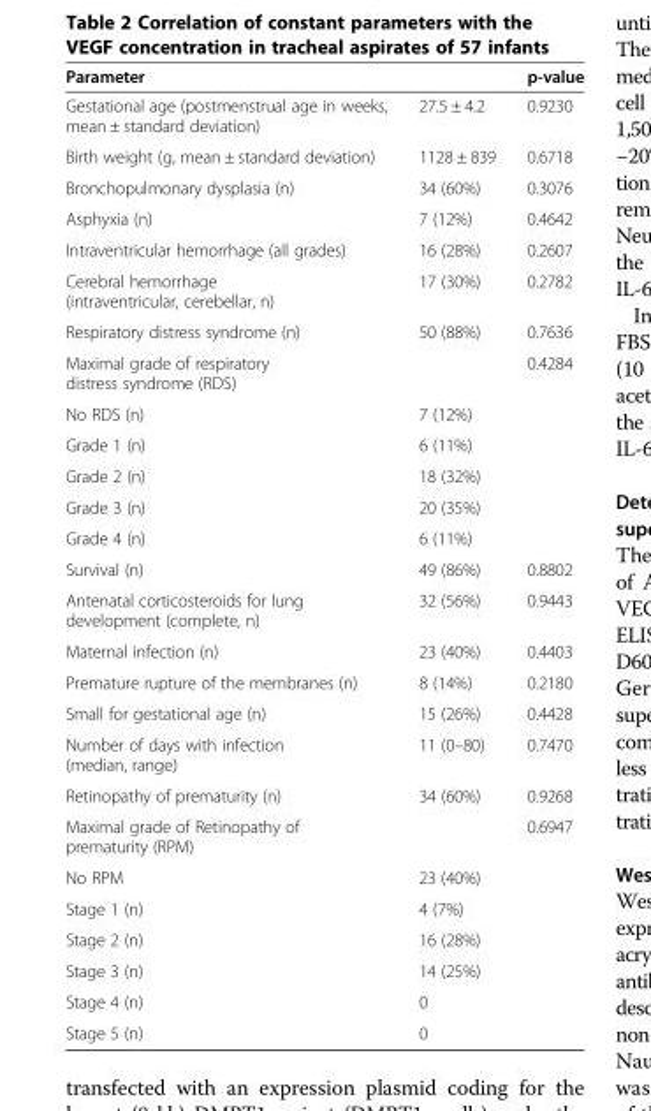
<table><thead><tr><td>Parameter</td><td></td><td>p-value</td></tr></thead><tbody><tr><td>Gestational age (postmenstrual age in weeks, mean ± standard deviation)</td><td>27.5 ± 4.2</td><td>0.9230</td></tr><tr><td>Birth weight (g, mean ± standard deviation)</td><td>1128 ± 839</td><td>0.6718</td></tr><tr><td>Bronchopulmonary dysplasia (n)</td><td>34 (60%)</td><td>0.3076</td></tr><tr><td>Asphyxia (n)</td><td>7 (12%)</td><td>0.4642</td></tr><tr><td>Intraventricular hemorrhage (all grades)</td><td>16 (28%)</td><td>0.2607</td></tr><tr><td>Cerebral hemorrhage (intraventricular, cerebellar, n)</td><td>17 (30%)</td><td>0.2782</td></tr><tr><td>Respiratory distress syndrome (n)</td><td>50 (88%)</td><td>0.7636</td></tr><tr><td>Maximal grade of respiratory distress syndrome (RDS)</td><td></td><td>0.4284</td></tr><tr><td>No RDS (n)</td><td>7 (12%)</td><td rowspan="5"></td></tr><tr><td>Grade 1 (n)</td><td>6 (11%)</td></tr><tr><td>Grade 2 (n)</td><td>18 (32%)</td></tr><tr><td>Grade 3 (n)</td><td>20 (35%)</td></tr><tr><td>Grade 4 (n)</td><td>6 (11%)</td></tr><tr><td>Survival (n)</td><td>49 (86%)</td><td>0.8802</td></tr><tr><td>Antenatal corticosteroids for lung development (complete, n)</td><td>32 (56%)</td><td>0.9443</td></tr><tr><td>Maternal infection (n)</td><td>23 (40%)</td><td>0.4403</td></tr><tr><td>Premature rupture of the membranes (n)</td><td>8 (14%)</td><td>0.2180</td></tr><tr><td>Small for gestational age (n)</td><td>15 (26%)</td><td>0.4428</td></tr><tr><td>Number of days with infection (median, range)</td><td>11 (0–80)</td><td>0.7470</td></tr><tr><td>Retinopathy of prematurity (n)</td><td>34 (60%)</td><td>0.9268</td></tr><tr><td>Maximal grade of Retinopathy of prematurity (RPM)</td><td></td><td>0.6947</td></tr><tr><td>No RPM</td><td>23 (40%)</td><td rowspan="6"></td></tr><tr><td>Stage 1 (n)</td><td>4 (7%)</td></tr><tr><td>Stage 2 (n)</td><td>16 (28%)</td></tr><tr><td>Stage 3 (n)</td><td>14 (25%)</td></tr><tr><td>Stage 4 (n)</td><td>0</td></tr><tr><td>Stage 5 (n)</td><td>0</td></tr></tbody></table>